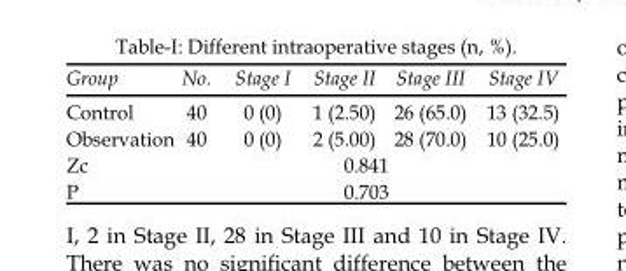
<table><thead><tr><td>Group</td><td>No.</td><td>Stage I</td><td>Stage II</td><td>Stage III</td><td>Stage IV</td></tr></thead><tbody><tr><td>Control</td><td>40</td><td>0 (0)</td><td>1 (2.50)</td><td>26 (65.0)</td><td>13 (32.5)</td></tr><tr><td>Observation</td><td>40</td><td>0 (0)</td><td>2 (5.00)</td><td>28 (70.0)</td><td>10 (25.0)</td></tr><tr><td>Zc</td><td colspan="5">0.841</td></tr><tr><td>P</td><td colspan="5">0.703</td></tr></tbody></table>